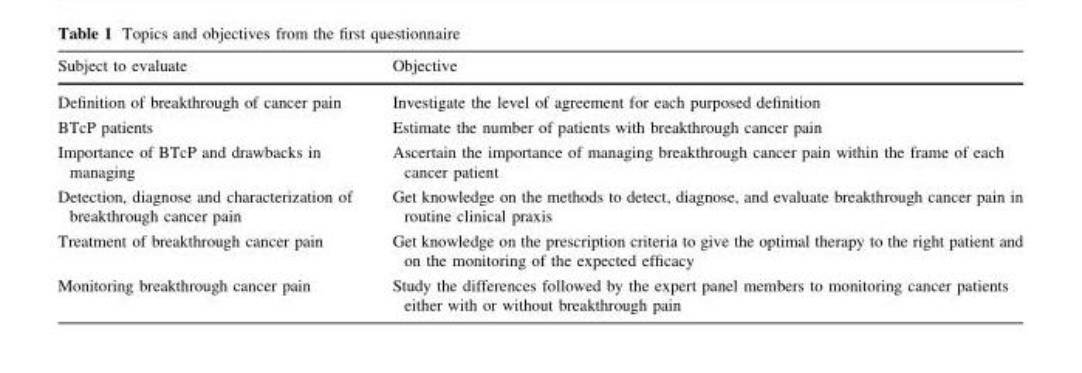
<table><thead><tr><td>Subject to evaluate</td><td>Objective</td></tr></thead><tbody><tr><td>Definition of breakthrough of cancer pain</td><td>Investigate the level of agreement for each purposed definition</td></tr><tr><td>BTcP patients</td><td>Estimate the number of patients with breakthrough cancer pain</td></tr><tr><td>Importance of BTcP and drawbacks in managing</td><td>Ascertain the importance of managing breakthrough cancer pain within the frame of each cancer patient</td></tr><tr><td>Detection, diagnose and characterization of breakthrough cancer pain</td><td>Get knowledge on the methods to detect, diagnose, and evaluate breakthrough cancer pain in routine clinical praxis</td></tr><tr><td>Treatment of breakthrough cancer pain</td><td>Get knowledge on the prescription criteria to give the optimal therapy to the right patient and on the monitoring of the expected efficacy</td></tr><tr><td>Monitoring breakthrough cancer pain</td><td>Study the differences followed by the expert panel members to monitoring cancer patients either with or without breakthrough pain</td></tr></tbody></table>